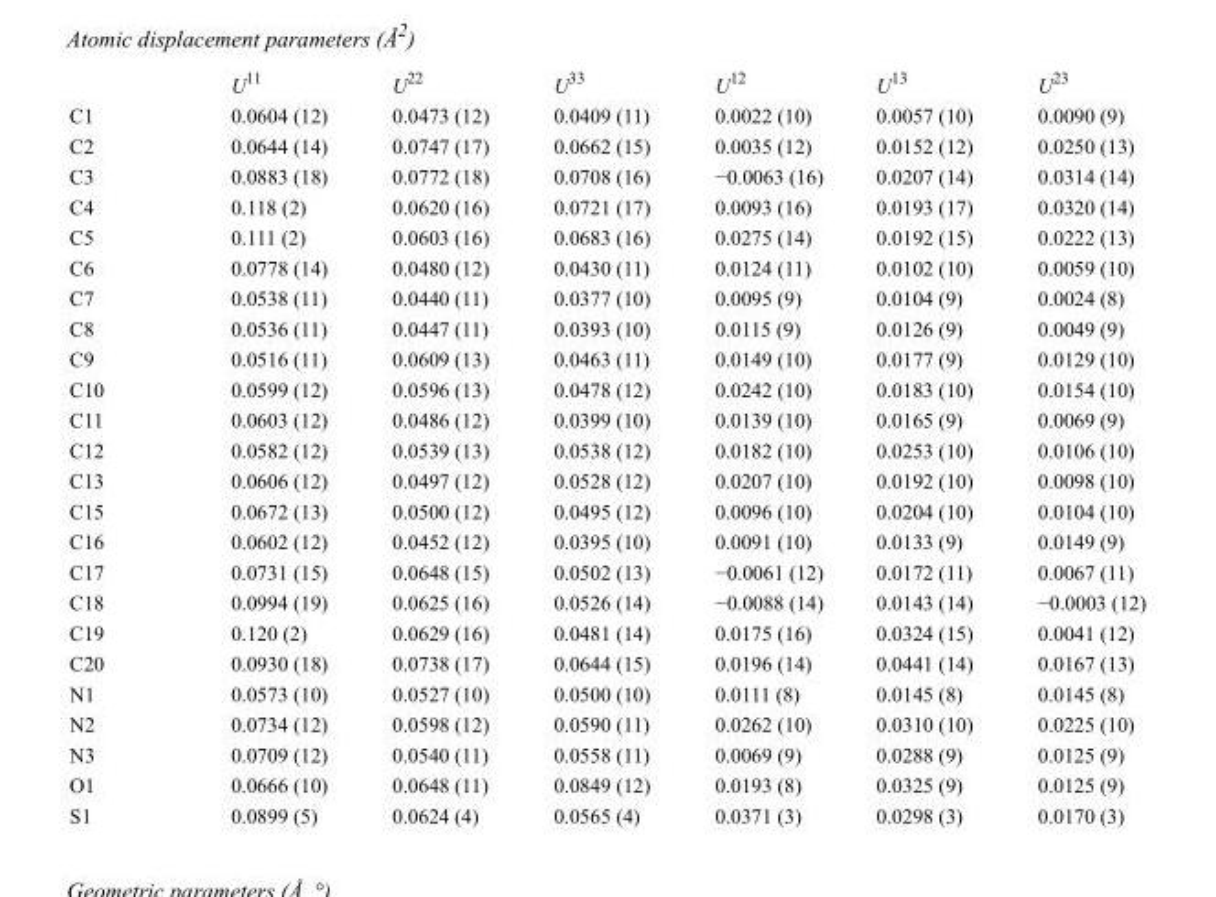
<table><thead><tr><td></td><td>U<sup>11</sup></td><td>U<sup>22</sup></td><td>U<sup>33</sup></td><td>U<sup>12</sup></td><td>U<sup>13</sup></td><td>U<sup>23</sup></td></tr></thead><tbody><tr><td>C1</td><td>0.0604 (12)</td><td>0.0473 (12)</td><td>0.0409 (11)</td><td>0.0022 (10)</td><td>0.0057 (10)</td><td>0.0090 (9)</td></tr><tr><td>C2</td><td>0.0644 (14)</td><td>0.0747 (17)</td><td>0.0662 (15)</td><td>0.0035 (12)</td><td>0.0152 (12)</td><td>0.0250 (13)</td></tr><tr><td>C3</td><td>0.0883 (18)</td><td>0.0772 (18)</td><td>0.0708 (16)</td><td>−0.0063 (16)</td><td>0.0207 (14)</td><td>0.0314 (14)</td></tr><tr><td>C4</td><td>0.118 (2)</td><td>0.0620 (16)</td><td>0.0721 (17)</td><td>0.0093 (16)</td><td>0.0193 (17)</td><td>0.0320 (14)</td></tr><tr><td>C5</td><td>0.111 (2)</td><td>0.0603 (16)</td><td>0.0683 (16)</td><td>0.0275 (14)</td><td>0.0192 (15)</td><td>0.0222 (13)</td></tr><tr><td>C6</td><td>0.0778 (14)</td><td>0.0480 (12)</td><td>0.0430 (11)</td><td>0.0124 (11)</td><td>0.0102 (10)</td><td>0.0059 (10)</td></tr><tr><td>C7</td><td>0.0538 (11)</td><td>0.0440 (11)</td><td>0.0377 (10)</td><td>0.0095 (9)</td><td>0.0104 (9)</td><td>0.0024 (8)</td></tr><tr><td>C8</td><td>0.0536 (11)</td><td>0.0447 (11)</td><td>0.0393 (10)</td><td>0.0115 (9)</td><td>0.0126 (9)</td><td>0.0049 (9)</td></tr><tr><td>C9</td><td>0.0516 (11)</td><td>0.0609 (13)</td><td>0.0463 (11)</td><td>0.0149 (10)</td><td>0.0177 (9)</td><td>0.0129 (10)</td></tr><tr><td>C10</td><td>0.0599 (12)</td><td>0.0596 (13)</td><td>0.0478 (12)</td><td>0.0242 (10)</td><td>0.0183 (10)</td><td>0.0154 (10)</td></tr><tr><td>C11</td><td>0.0603 (12)</td><td>0.0486 (12)</td><td>0.0399 (10)</td><td>0.0139 (10)</td><td>0.0165 (9)</td><td>0.0069 (9)</td></tr><tr><td>C12</td><td>0.0582 (12)</td><td>0.0539 (13)</td><td>0.0538 (12)</td><td>0.0182 (10)</td><td>0.0253 (10)</td><td>0.0106 (10)</td></tr><tr><td>C13</td><td>0.0606 (12)</td><td>0.0497 (12)</td><td>0.0528 (12)</td><td>0.0207 (10)</td><td>0.0192 (10)</td><td>0.0098 (10)</td></tr><tr><td>C15</td><td>0.0672 (13)</td><td>0.0500 (12)</td><td>0.0495 (12)</td><td>0.0096 (10)</td><td>0.0204 (10)</td><td>0.0104 (10)</td></tr><tr><td>C16</td><td>0.0602 (12)</td><td>0.0452 (12)</td><td>0.0395 (10)</td><td>0.0091 (10)</td><td>0.0133 (9)</td><td>0.0149 (9)</td></tr><tr><td>C17</td><td>0.0731 (15)</td><td>0.0648 (15)</td><td>0.0502 (13)</td><td>−0.0061 (12)</td><td>0.0172 (11)</td><td>0.0067 (11)</td></tr><tr><td>C18</td><td>0.0994 (19)</td><td>0.0625 (16)</td><td>0.0526 (14)</td><td>−0.0088 (14)</td><td>0.0143 (14)</td><td>−0.0003 (12)</td></tr><tr><td>C19</td><td>0.120 (2)</td><td>0.0629 (16)</td><td>0.0481 (14)</td><td>0.0175 (16)</td><td>0.0324 (15)</td><td>0.0041 (12)</td></tr><tr><td>C20</td><td>0.0930 (18)</td><td>0.0738 (17)</td><td>0.0644 (15)</td><td>0.0196 (14)</td><td>0.0441 (14)</td><td>0.0167 (13)</td></tr><tr><td>N1</td><td>0.0573 (10)</td><td>0.0527 (10)</td><td>0.0500 (10)</td><td>0.0111 (8)</td><td>0.0145 (8)</td><td>0.0145 (8)</td></tr><tr><td>N2</td><td>0.0734 (12)</td><td>0.0598 (12)</td><td>0.0590 (11)</td><td>0.0262 (10)</td><td>0.0310 (10)</td><td>0.0225 (10)</td></tr><tr><td>N3</td><td>0.0709 (12)</td><td>0.0540 (11)</td><td>0.0558 (11)</td><td>0.0069 (9)</td><td>0.0288 (9)</td><td>0.0125 (9)</td></tr><tr><td>O1</td><td>0.0666 (10)</td><td>0.0648 (11)</td><td>0.0849 (12)</td><td>0.0193 (8)</td><td>0.0325 (9)</td><td>0.0125 (9)</td></tr><tr><td>S1</td><td>0.0899 (5)</td><td>0.0624 (4)</td><td>0.0565 (4)</td><td>0.0371 (3)</td><td>0.0298 (3)</td><td>0.0170 (3)</td></tr></tbody></table>